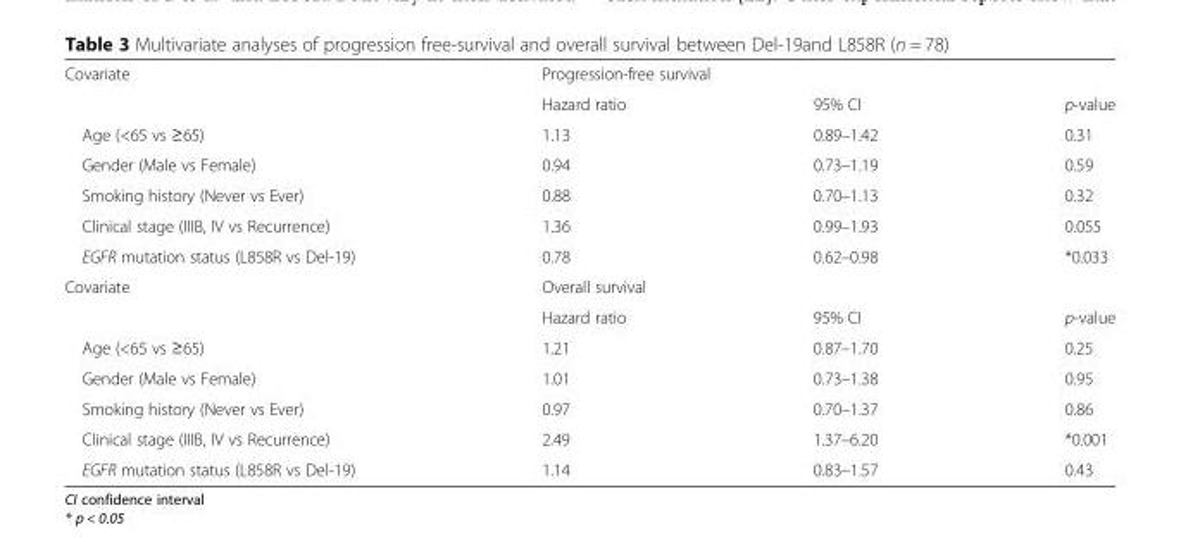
<table><tbody><tr><td rowspan="2">Covariate</td><td colspan="3">Progression-free survival</td></tr><tr><td>Hazard ratio</td><td>95% CI</td><td>p-value</td></tr><tr><td>Age (&lt;65 vs ≥65)</td><td>1.13</td><td>0.89–1.42</td><td>0.31</td></tr><tr><td>Gender (Male vs Female)</td><td>0.94</td><td>0.73–1.19</td><td>0.59</td></tr><tr><td>Smoking history (Never vs Ever)</td><td>0.88</td><td>0.70–1.13</td><td>0.32</td></tr><tr><td>Clinical stage (IIIB, IV vs Recurrence)</td><td>1.36</td><td>0.99–1.93</td><td>0.055</td></tr><tr><td>EGFR mutation status (L858R vs Del-19)</td><td>0.78</td><td>0.62–0.98</td><td>*0.033</td></tr><tr><td rowspan="2">Covariate</td><td colspan="3">Overall survival</td></tr><tr><td>Hazard ratio</td><td>95% CI</td><td>p-value</td></tr><tr><td>Age (&lt;65 vs ≥65)</td><td>1.21</td><td>0.87–1.70</td><td>0.25</td></tr><tr><td>Gender (Male vs Female)</td><td>1.01</td><td>0.73–1.38</td><td>0.95</td></tr><tr><td>Smoking history (Never vs Ever)</td><td>0.97</td><td>0.70–1.37</td><td>0.86</td></tr><tr><td>Clinical stage (IIIB, IV vs Recurrence)</td><td>2.49</td><td>1.37–6.20</td><td>*0.001</td></tr><tr><td>EGFR mutation status (L858R vs Del-19)</td><td>1.14</td><td>0.83–1.57</td><td>0.43</td></tr></tbody></table>